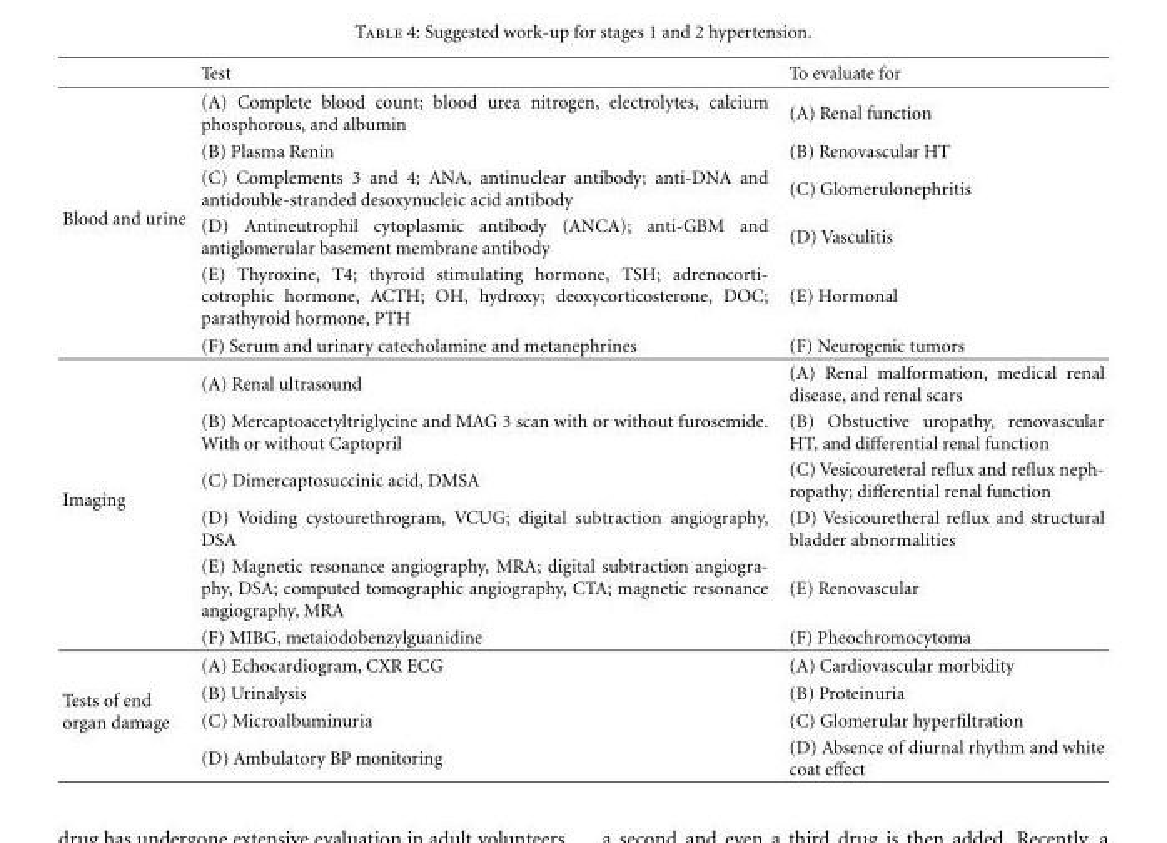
<table><thead><tr><td></td><td>Test</td><td>To evaluate for</td></tr></thead><tbody><tr><td rowspan="6">Blood and urine</td><td>(A) Complete blood count; blood urea nitrogen, electrolytes, calcium phosphorous, and albumin</td><td>(A) Renal function</td></tr><tr><td>(B) Plasma Renin</td><td>(B) Renovascular HT</td></tr><tr><td>(C) Complements 3 and 4; ANA, antinuclear antibody; anti-DNA and antidouble-stranded desoxynucleic acid antibody</td><td>(C) Glomerulonephritis</td></tr><tr><td>(D) Antineutrophil cytoplasmic antibody (ANCA); anti-GBM and antiglomerular basement membrane antibody</td><td>(D) Vasculitis</td></tr><tr><td>(E) Thyroxine, T4; thyroid stimulating hormone, TSH; adrenocorti- cotrophic hormone, ACTH; OH, hydroxy; deoxycorticosterone, DOC; parathyroid hormone, PTH</td><td>(E) Hormonal</td></tr><tr><td>(F) Serum and urinary catecholamine and metanephrines</td><td>(F) Neurogenic tumors</td></tr><tr><td rowspan="6">Imaging</td><td>(A) Renal ultrasound</td><td>(A) Renal malformation, medical renal disease, and renal scars</td></tr><tr><td>(B) Mercaptoacetyltriglycine and MAG 3 scan with or without furosemide. With or without Captopril</td><td>(B) Obstuctive uropathy, renovascular HT, and differential renal function</td></tr><tr><td>(C) Dimercaptosuccinic acid, DMSA</td><td>(C) Vesicoureteral reflux and reflux neph- ropathy; differential renal function</td></tr><tr><td>(D) Voiding cystourethrogram, VCUG; digital subtraction angiography, DSA</td><td>(D) Vesicouretheral reflux and structural bladder abnormalities</td></tr><tr><td>(E) Magnetic resonance angiography, MRA; digital subtraction angiogra- phy, DSA; computed tomographic angiography, CTA; magnetic resonance angiography, MRA</td><td>(E) Renovascular</td></tr><tr><td>(F) MIBG, metaiodobenzylguanidine</td><td>(F) Pheochromocytoma</td></tr><tr><td rowspan="4">Tests of end organ damage</td><td>(A) Echocardiogram, CXR ECG</td><td>(A) Cardiovascular morbidity</td></tr><tr><td>(B) Urinalysis</td><td>(B) Proteinuria</td></tr><tr><td>(C) Microalbuminuria</td><td>(C) Glomerular hyperfiltration</td></tr><tr><td>(D) Ambulatory BP monitoring</td><td>(D) Absence of diurnal rhythm and white coat effect</td></tr></tbody></table>